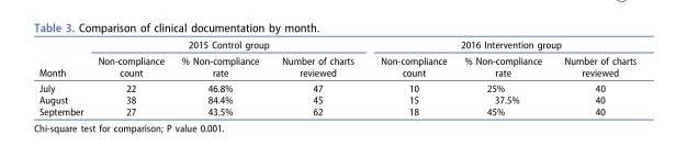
<table><thead><tr><td rowspan="2">Month</td><td colspan="3">2015 Control group</td><td colspan="3">2016 Intervention group</td></tr><tr><td>Non-compliance count</td><td>% Non-compliance rate</td><td>Number of charts reviewed</td><td>Non-compliance count</td><td>% Non-compliance rate</td><td>Number of charts reviewed</td></tr></thead><tbody><tr><td>July</td><td>22</td><td>46.8%</td><td>47</td><td>10</td><td>25%</td><td>40</td></tr><tr><td>August</td><td>38</td><td>84.4%</td><td>45</td><td>15</td><td>37.5%</td><td>40</td></tr><tr><td>September</td><td>27</td><td>43.5%</td><td>62</td><td>18</td><td>45%</td><td>40</td></tr></tbody></table>